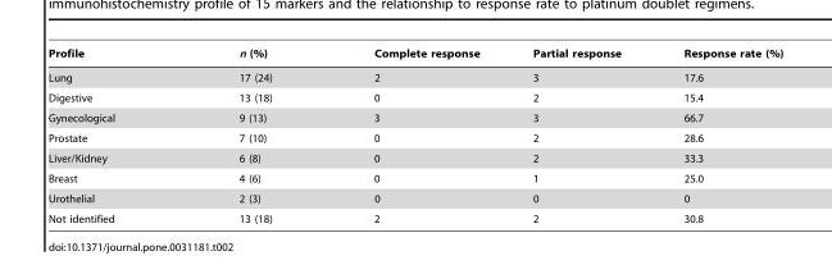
<table><thead><tr><td>Profile</td><td>n (%)</td><td>Complete response</td><td>Partial response</td><td>Response rate (%)</td></tr></thead><tbody><tr><td>Lung</td><td>17 (24)</td><td>2</td><td>3</td><td>17.6</td></tr><tr><td>Digestive</td><td>13 (18)</td><td>0</td><td>2</td><td>15.4</td></tr><tr><td>Gynecological</td><td>9 (13)</td><td>3</td><td>3</td><td>66.7</td></tr><tr><td>Prostate</td><td>7 (10)</td><td>0</td><td>2</td><td>28.6</td></tr><tr><td>Liver/Kidney</td><td>6 (8)</td><td>0</td><td>2</td><td>33.3</td></tr><tr><td>Breast</td><td>4 (6)</td><td>0</td><td>1</td><td>25.0</td></tr><tr><td>Urothelial</td><td>2 (3)</td><td>0</td><td>0</td><td>0</td></tr><tr><td>Not identified</td><td>13 (18)</td><td>2</td><td>2</td><td>30.8</td></tr></tbody></table>